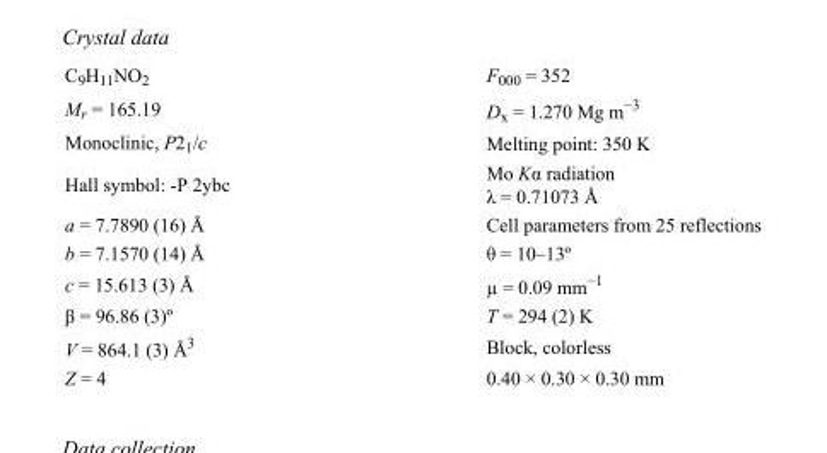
<table><tbody><tr><td>C<sub>9</sub>H<sub>11</sub>NO<sub>2</sub></td><td>F<sub>000</sub> = 352</td></tr><tr><td>M<sub>r</sub> = 165.19</td><td>D<sub>x</sub> = 1.270 Mg m<sup>−3</sup></td></tr><tr><td>Monoclinic, P2<sub>1</sub>/c</td><td>Melting point: 350 K</td></tr><tr><td>Hall symbol: -P 2ybc</td><td>Mo Kα radiation λ = 0.71073 Å</td></tr><tr><td>a = 7.7890 (16) Å</td><td>Cell parameters from 25 reflections</td></tr><tr><td>b = 7.1570 (14) Å</td><td>θ = 10–13º</td></tr><tr><td>c = 15.613 (3) Å</td><td>µ = 0.09 mm<sup>−1</sup></td></tr><tr><td>β = 96.86 (3)º</td><td>T = 294 (2) K</td></tr><tr><td>V = 864.1 (3) Å<sup>3</sup></td><td>Block, colorless</td></tr><tr><td>Z = 4</td><td>0.40 × 0.30 × 0.30 mm</td></tr></tbody></table>